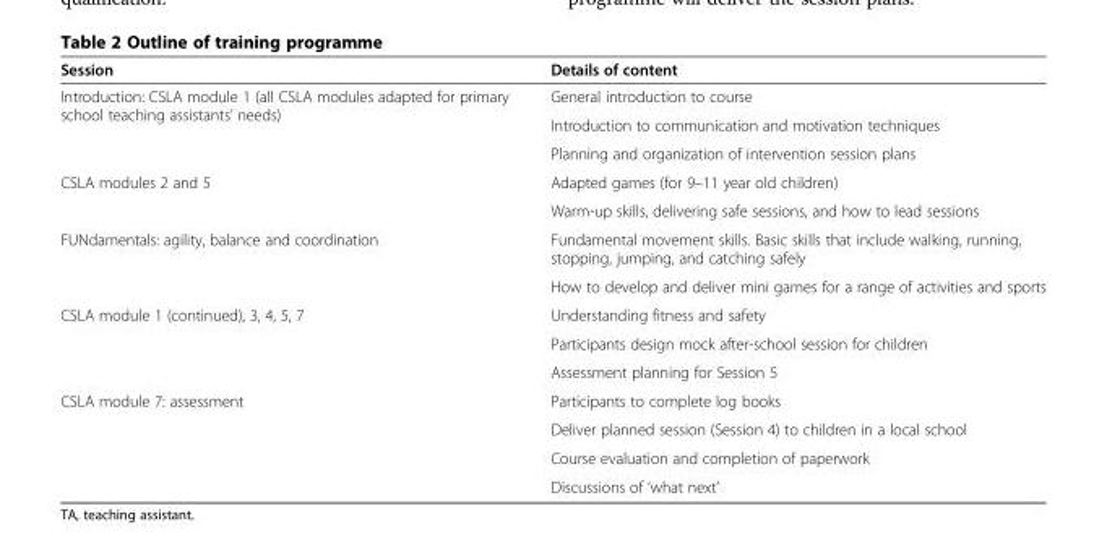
<table><thead><tr><td>Session</td><td>Details of content</td></tr></thead><tbody><tr><td rowspan="3">Introduction: CSLA module 1 (all CSLA modules adapted for primary school teaching assistants’ needs)</td><td>General introduction to course</td></tr><tr><td>Introduction to communication and motivation techniques</td></tr><tr><td>Planning and organization of intervention session plans</td></tr><tr><td rowspan="2">CSLA modules 2 and 5</td><td>Adapted games (for 9–11 year old children)</td></tr><tr><td>Warm-up skills, delivering safe sessions, and how to lead sessions</td></tr><tr><td rowspan="2">FUNdamentals: agility, balance and coordination</td><td>Fundamental movement skills. Basic skills that include walking, running, stopping, jumping, and catching safely</td></tr><tr><td>How to develop and deliver mini games for a range of activities and sports</td></tr><tr><td rowspan="3">CSLA module 1 (continued), 3, 4, 5, 7</td><td>Understanding fitness and safety</td></tr><tr><td>Participants design mock after-school session for children</td></tr><tr><td>Assessment planning for Session 5</td></tr><tr><td rowspan="4">CSLA module 7: assessment</td><td>Participants to complete log books</td></tr><tr><td>Deliver planned session (Session 4) to children in a local school</td></tr><tr><td>Course evaluation and completion of paperwork</td></tr><tr><td>Discussions of ‘what next’</td></tr></tbody></table>